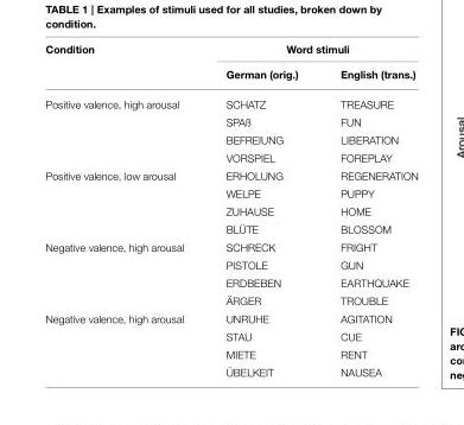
<table><thead><tr><td rowspan="2">Condition</td><td colspan="2">Word stimuli</td></tr><tr><td>German (orig.)</td><td>English (trans.)</td></tr></thead><tbody><tr><td rowspan="4">Positive valence, high arousal</td><td>SCHATZ</td><td>TREASURE</td></tr><tr><td>SPAß</td><td>FUN</td></tr><tr><td>BEFREIUNG</td><td>LIBERATION</td></tr><tr><td>VORSPIEL</td><td>FOREPLAY</td></tr><tr><td rowspan="4">Positive valence, low arousal</td><td>ERHOLUNG</td><td>REGENERATION</td></tr><tr><td>WELPE</td><td>PUPPY</td></tr><tr><td>ZUHAUSE</td><td>HOME</td></tr><tr><td>BLÜTE</td><td>BLOSSOM</td></tr><tr><td rowspan="4">Negative valence, high arousal</td><td>SCHRECK</td><td>FRIGHT</td></tr><tr><td>PISTOLE</td><td>GUN</td></tr><tr><td>ERDBEBEN</td><td>EARTHQUAKE</td></tr><tr><td>ÄRGER</td><td>TROUBLE</td></tr><tr><td rowspan="4">Negative valence, high arousal</td><td>UNRUHE</td><td>AGITATION</td></tr><tr><td>STAU</td><td>CUE</td></tr><tr><td>MIETE</td><td>RENT</td></tr><tr><td>ÜBELKEIT</td><td>NAUSEA</td></tr></tbody></table>